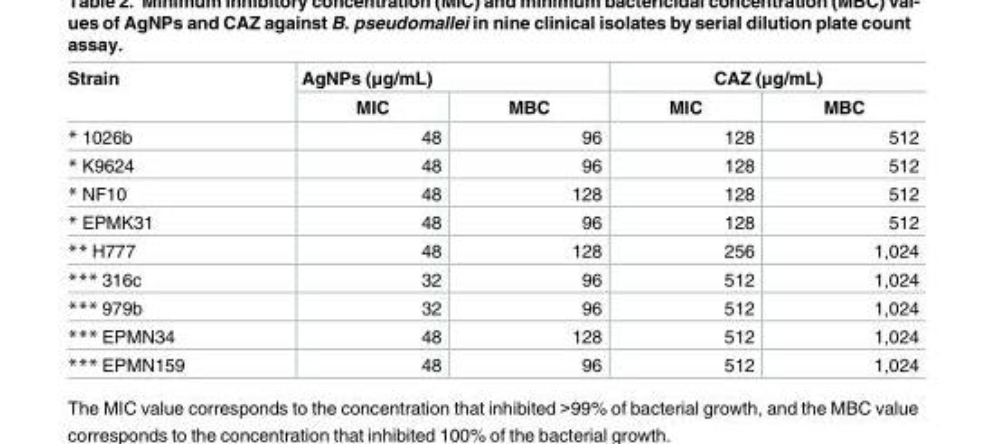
<table><thead><tr><td rowspan="2">Strain</td><td colspan="2">AgNPs (μg/mL)</td><td colspan="2">CAZ (μg/mL)</td></tr><tr><td>MIC</td><td>MBC</td><td>MIC</td><td>MBC</td></tr></thead><tbody><tr><td>* 1026b</td><td>48</td><td>96</td><td>128</td><td>512</td></tr><tr><td>* K9624</td><td>48</td><td>96</td><td>128</td><td>512</td></tr><tr><td>* NF10</td><td>48</td><td>128</td><td>128</td><td>512</td></tr><tr><td>* EPMK31</td><td>48</td><td>96</td><td>128</td><td>512</td></tr><tr><td>** H777</td><td>48</td><td>128</td><td>256</td><td>1,024</td></tr><tr><td>*** 316c</td><td>32</td><td>96</td><td>512</td><td>1,024</td></tr><tr><td>*** 979b</td><td>32</td><td>96</td><td>512</td><td>1,024</td></tr><tr><td>*** EPMN34</td><td>48</td><td>128</td><td>512</td><td>1,024</td></tr><tr><td>*** EPMN159</td><td>48</td><td>96</td><td>512</td><td>1,024</td></tr></tbody></table>